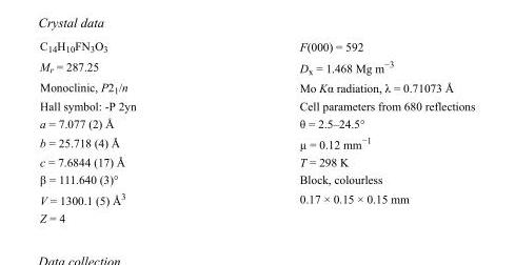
<table><tbody><tr><td>C<sub>14</sub>H<sub>10</sub>FN<sub>3</sub>O<sub>3</sub></td><td>F(000) = 592</td></tr><tr><td>M<sub>r</sub> = 287.25</td><td>D<sub>x</sub> = 1.468 Mg m<sup>−3</sup></td></tr><tr><td>Monoclinic, P2<sub>1</sub>/n</td><td>Mo Kα radiation, λ = 0.71073 Å</td></tr><tr><td>Hall symbol: -P 2yn</td><td>Cell parameters from 680 reflections</td></tr><tr><td>a = 7.077 (2) Å</td><td>θ = 2.5–24.5°</td></tr><tr><td>b = 25.718 (4) Å</td><td>µ = 0.12 mm<sup>−1</sup></td></tr><tr><td>c = 7.6844 (17) Å</td><td>T = 298 K</td></tr><tr><td>β = 111.640 (3)°</td><td>Block, colourless</td></tr><tr><td>V = 1300.1 (5) Å<sup>3</sup></td><td>0.17 × 0.15 × 0.15 mm</td></tr><tr><td>Z = 4</td><td></td></tr></tbody></table>